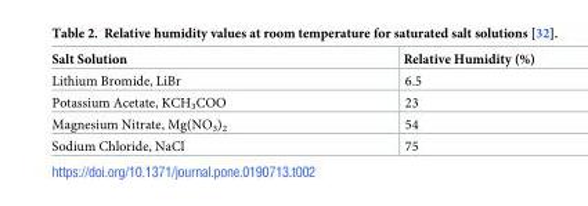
<table><thead><tr><td>Salt Solution</td><td>Relative Humidity (%)</td></tr></thead><tbody><tr><td>Lithium Bromide, LiBr</td><td>6.5</td></tr><tr><td>Potassium Acetate, KCH<sub>3</sub>COO</td><td>23</td></tr><tr><td>Magnesium Nitrate, Mg(NO<sub>3</sub>)<sub>2</sub></td><td>54</td></tr><tr><td>Sodium Chloride, NaCl</td><td>75</td></tr></tbody></table>